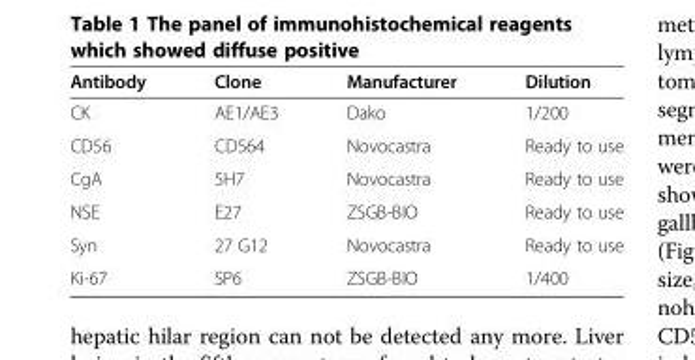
<table><thead><tr><td>Antibody</td><td>Clone</td><td>Manufacturer</td><td>Dilution</td></tr></thead><tbody><tr><td>CK</td><td>AE1/AE3</td><td>Dako</td><td>1/200</td></tr><tr><td>CD56</td><td>CD564</td><td>Novocastra</td><td>Ready to use</td></tr><tr><td>CgA</td><td>5H7</td><td>Novocastra</td><td>Ready to use</td></tr><tr><td>NSE</td><td>E27</td><td>ZSGB-BIO</td><td>Ready to use</td></tr><tr><td>Syn</td><td>27 G12</td><td>Novocastra</td><td>Ready to use</td></tr><tr><td>Ki-67</td><td>SP6</td><td>ZSGB-BIO</td><td>1/400</td></tr></tbody></table>